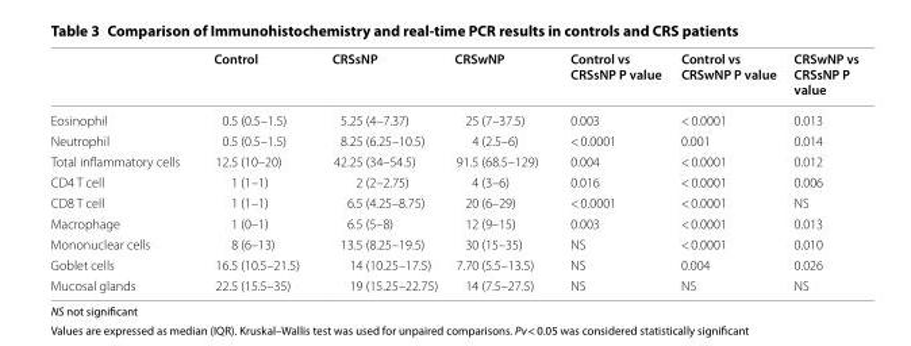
<table><thead><tr><td></td><td>Control</td><td>CRSsNP</td><td>CRSwNP</td><td>Control vs CRSsNP P value</td><td>Control vs CRSwNP P value</td><td>CRSwNP vs CRSsNP P value</td></tr></thead><tbody><tr><td>Eosinophil</td><td>0.5 (0.5–1.5)</td><td>5.25 (4–7.37)</td><td>25 (7–37.5)</td><td>0.003</td><td>&lt; 0.0001</td><td>0.013</td></tr><tr><td>Neutrophil</td><td>0.5 (0.5–1.5)</td><td>8.25 (6.25–10.5)</td><td>4 (2.5–6)</td><td>&lt; 0.0001</td><td>0.001</td><td>0.014</td></tr><tr><td>Total inflammatory cells</td><td>12.5 (10–20)</td><td>42.25 (34–54.5)</td><td>91.5 (68.5–129)</td><td>0.004</td><td>&lt; 0.0001</td><td>0.012</td></tr><tr><td>CD4 T cell</td><td>1 (1–1)</td><td>2 (2–2.75)</td><td>4 (3–6)</td><td>0.016</td><td>&lt; 0.0001</td><td>0.006</td></tr><tr><td>CD8 T cell</td><td>1 (1–1)</td><td>6.5 (4.25–8.75)</td><td>20 (6–29)</td><td>&lt; 0.0001</td><td>&lt; 0.0001</td><td>NS</td></tr><tr><td>Macrophage</td><td>1 (0–1)</td><td>6.5 (5–8)</td><td>12 (9–15)</td><td>0.003</td><td>&lt; 0.0001</td><td>0.013</td></tr><tr><td>Mononuclear cells</td><td>8 (6–13)</td><td>13.5 (8.25–19.5)</td><td>30 (15–35)</td><td>NS</td><td>&lt; 0.0001</td><td>0.010</td></tr><tr><td>Goblet cells</td><td>16.5 (10.5–21.5)</td><td>14 (10.25–17.5)</td><td>7.70 (5.5–13.5)</td><td>NS</td><td>0.004</td><td>0.026</td></tr><tr><td>Mucosal glands</td><td>22.5 (15.5–35)</td><td>19 (15.25–22.75)</td><td>14 (7.5–27.5)</td><td>NS</td><td>NS</td><td>NS</td></tr></tbody></table>